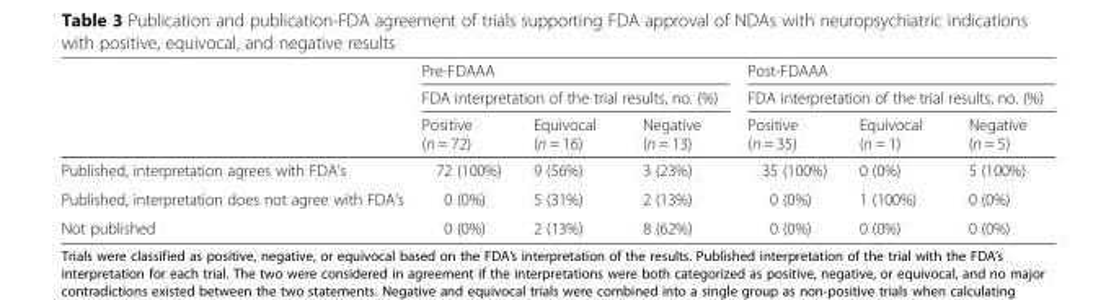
<table><thead><tr><td rowspan="3"></td><td rowspan="2" colspan="3">Pre-FDAAA FDA interpretation of the trial results, no. (%)</td><td rowspan="2" colspan="3">Post-FDAAA FDA interpretation of the trial results, no. (%)</td></tr><tr></tr><tr><td>Positive (n = 72)</td><td>Equivocal (n = 16)</td><td>Negative (n = 13)</td><td>Positive (n = 35)</td><td>Equivocal (n = 1)</td><td>Negative (n = 5)</td></tr></thead><tbody><tr><td>Published, interpretation agrees with FDA’s</td><td>72 (100%)</td><td>9 (56%)</td><td>3 (23%)</td><td>35 (100%)</td><td>0 (0%)</td><td>5 (100%)</td></tr><tr><td>Published, interpretation does not agree with FDA’s</td><td>0 (0%)</td><td>5 (31%)</td><td>2 (13%)</td><td>0 (0%)</td><td>1 (100%)</td><td>0 (0%)</td></tr><tr><td>Not published</td><td>0 (0%)</td><td>2 (13%)</td><td>8 (62%)</td><td>0 (0%)</td><td>0 (0%)</td><td>0 (0%)</td></tr></tbody></table>